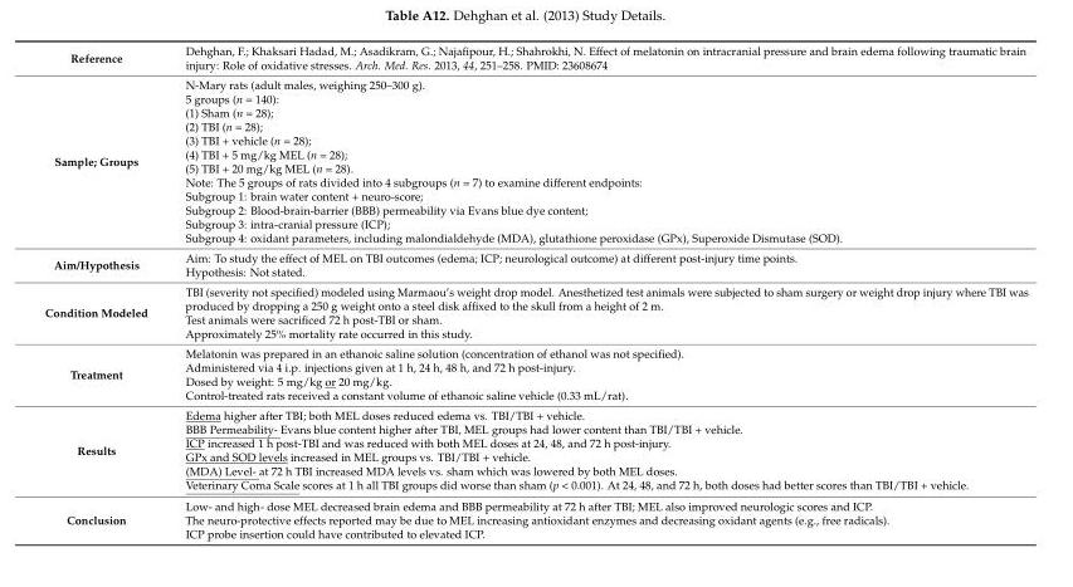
<table><tbody><tr><td>Reference</td><td>Dehghan, F.; Khaksari Hadad, M.; Asadikram, G.; Najafipour, H.; Shahrokhi, N. Effect of melatonin on intracranial pressure and brain edema following traumatic brain injury: Role of oxidative stresses. Arch. Med. Res. 2013, 44, 251–258. PMID: 23608674</td></tr><tr><td>Sample; Groups</td><td>N-Mary rats (adult males, weighing 250–300 g). 5 groups (n = 140): (1) Sham (n = 28); (2) TBI (n = 28); (3) TBI + vehicle (n = 28); (4) TBI + 5 mg/kg MEL (n = 28); (5) TBI + 20 mg/kg MEL (n = 28). Note: The 5 groups of rats divided into 4 subgroups (n = 7) to examine different endpoints: Subgroup 1: brain water content + neuro-score; Subgroup 2: Blood-brain-barrier (BBB) permeability via Evans blue dye content; Subgroup 3: intra-cranial pressure (ICP); Subgroup 4: oxidant parameters, including malondialdehyde (MDA), glutathione peroxidase (GPx), Superoxide Dismutase (SOD).</td></tr><tr><td>Aim/Hypothesis</td><td>Aim: To study the effect of MEL on TBI outcomes (edema; ICP; neurological outcome) at different post-injury time points. Hypothesis: Not stated.</td></tr><tr><td>Condition Modeled</td><td>TBI (severity not specified) modeled using Marmaou’s weight drop model. Anesthetized test animals were subjected to sham surgery or weight drop injury where TBI was produced by dropping a 250 g weight onto a steel disk affixed to the skull from a height of 2 m. Test animals were sacrificed 72 h post-TBI or sham. Approximately 25% mortality rate occurred in this study.</td></tr><tr><td>Treatment</td><td>Melatonin was prepared in an ethanoic saline solution (concentration of ethanol was not specified). Administered via 4 i.p. injections given at 1 h, 24 h, 48 h, and 72 h post-injury. Dosed by weight: 5 mg/kg or 20 mg/kg. Control-treated rats received a constant volume of ethanoic saline vehicle (0.33 mL/rat).</td></tr><tr><td>Results</td><td>Edema higher after TBI; both MEL doses reduced edema vs. TBI/TBI + vehicle. BBB Permeability- Evans blue content higher after TBI, MEL groups had lower content than TBI/TBI + vehicle. ICP increased 1 h post-TBI and was reduced with both MEL doses at 24, 48, and 72 h post-injury. GPx and SOD levels increased in MEL groups vs. TBI/TBI + vehicle. (MDA) Level- at 72 h TBI increased MDA levels vs. sham which was lowered by both MEL doses. Veterinary Coma Scale scores at 1 h all TBI groups did worse than sham (p &lt; 0.001). At 24, 48, and 72 h, both doses had better scores than TBI/TBI + vehicle.</td></tr><tr><td>Conclusion</td><td>Low- and high- dose MEL decreased brain edema and BBB permeability at 72 h after TBI; MEL also improved neurologic scores and ICP. The neuro-protective effects reported may be due to MEL increasing antioxidant enzymes and decreasing oxidant agents (e.g., free radicals). ICP probe insertion could have contributed to elevated ICP.</td></tr></tbody></table>